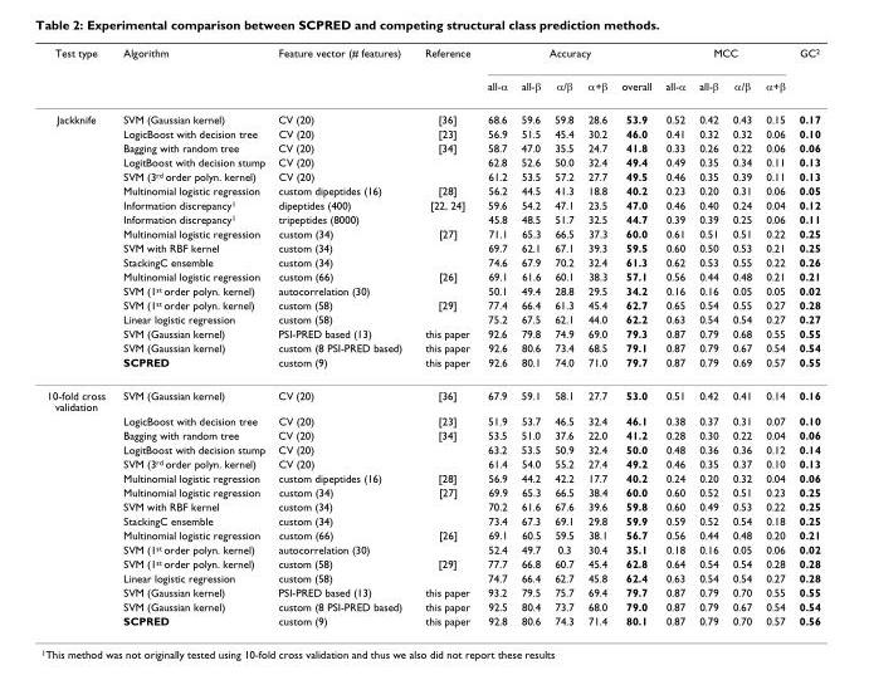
<table><thead><tr><td rowspan="2">Test type</td><td rowspan="2">Algorithm</td><td rowspan="2">Feature vector (# features)</td><td rowspan="2">Reference</td><td colspan="5">Accuracy</td><td colspan="4">MCC</td><td rowspan="2">GC<sup>2</sup></td></tr><tr><td>all-α</td><td>all-β</td><td>α/β</td><td>α+β</td><td>overall</td><td>all-α</td><td>all-β</td><td>α/β</td><td>α+β</td></tr></thead><tbody><tr><td rowspan="18">Jackknife</td><td>SVM (Gaussian kernel)</td><td>CV (20)</td><td>[36]</td><td>68.6</td><td>59.6</td><td>59.8</td><td>28.6</td><td>53.9</td><td>0.52</td><td>0.42</td><td>0.43</td><td>0.15</td><td>0.17</td></tr><tr><td>LogicBoost with decision tree</td><td>CV (20)</td><td>[23]</td><td>56.9</td><td>51.5</td><td>45.4</td><td>30.2</td><td>46.0</td><td>0.41</td><td>0.32</td><td>0.32</td><td>0.06</td><td>0.10</td></tr><tr><td>Bagging with random tree</td><td>CV (20)</td><td>[34]</td><td>58.7</td><td>47.0</td><td>35.5</td><td>24.7</td><td>41.8</td><td>0.33</td><td>0.26</td><td>0.22</td><td>0.06</td><td>0.06</td></tr><tr><td>LogitBoost with decision stump</td><td>CV (20)</td><td></td><td>62.8</td><td>52.6</td><td>50.0</td><td>32.4</td><td>49.4</td><td>0.49</td><td>0.35</td><td>0.34</td><td>0.11</td><td>0.13</td></tr><tr><td>SVM (3<sup>rd</sup> order polyn. kernel)</td><td>CV (20)</td><td></td><td>61.2</td><td>53.5</td><td>57.2</td><td>27.7</td><td>49.5</td><td>0.46</td><td>0.35</td><td>0.39</td><td>0.11</td><td>0.13</td></tr><tr><td>Multinomial logistic regression</td><td>custom dipeptides (16)</td><td>[28]</td><td>56.2</td><td>44.5</td><td>41.3</td><td>18.8</td><td>40.2</td><td>0.23</td><td>0.20</td><td>0.31</td><td>0.06</td><td>0.05</td></tr><tr><td>Information discrepancy<sup>1</sup></td><td>dipeptides (400)</td><td>[22, 24]</td><td>59.6</td><td>54.2</td><td>47.1</td><td>23.5</td><td>47.0</td><td>0.46</td><td>0.40</td><td>0.24</td><td>0.04</td><td>0.12</td></tr><tr><td>Information discrepancy<sup>1</sup></td><td>tripeptides (8000)</td><td></td><td>45.8</td><td>48.5</td><td>51.7</td><td>32.5</td><td>44.7</td><td>0.39</td><td>0.39</td><td>0.25</td><td>0.06</td><td>0.11</td></tr><tr><td>Multinomial logistic regression</td><td>custom (34)</td><td>[27]</td><td>71.1</td><td>65.3</td><td>66.5</td><td>37.3</td><td>60.0</td><td>0.61</td><td>0.51</td><td>0.51</td><td>0.22</td><td>0.25</td></tr><tr><td>SVM with RBF kernel</td><td>custom (34)</td><td></td><td>69.7</td><td>62.1</td><td>67.1</td><td>39.3</td><td>59.5</td><td>0.60</td><td>0.50</td><td>0.53</td><td>0.21</td><td>0.25</td></tr><tr><td>StackingC ensemble</td><td>custom (34)</td><td></td><td>74.6</td><td>67.9</td><td>70.2</td><td>32.4</td><td>61.3</td><td>0.62</td><td>0.53</td><td>0.55</td><td>0.22</td><td>0.26</td></tr><tr><td>Multinomial logistic regression</td><td>custom (66)</td><td>[26]</td><td>69.1</td><td>61.6</td><td>60.1</td><td>38.3</td><td>57.1</td><td>0.56</td><td>0.44</td><td>0.48</td><td>0.21</td><td>0.21</td></tr><tr><td>SVM (1<sup>st</sup> order polyn. kernel)</td><td>autocorrelation (30)</td><td></td><td>50.1</td><td>49.4</td><td>28.8</td><td>29.5</td><td>34.2</td><td>0.16</td><td>0.16</td><td>0.05</td><td>0.05</td><td>0.02</td></tr><tr><td>SVM (1<sup>st</sup> order polyn. kernel)</td><td>custom (58)</td><td>[29]</td><td>77.4</td><td>66.4</td><td>61.3</td><td>45.4</td><td>62.7</td><td>0.65</td><td>0.54</td><td>0.55</td><td>0.27</td><td>0.28</td></tr><tr><td>Linear logistic regression</td><td>custom (58)</td><td></td><td>75.2</td><td>67.5</td><td>62.1</td><td>44.0</td><td>62.2</td><td>0.63</td><td>0.54</td><td>0.54</td><td>0.27</td><td>0.27</td></tr><tr><td>SVM (Gaussian kernel)</td><td>PSI-PRED based (13)</td><td>this paper</td><td>92.6</td><td>79.8</td><td>74.9</td><td>69.0</td><td>79.3</td><td>0.87</td><td>0.79</td><td>0.68</td><td>0.55</td><td>0.55</td></tr><tr><td>SVM (Gaussian kernel)</td><td>custom (8 PSI-PRED based)</td><td>this paper</td><td>92.6</td><td>80.6</td><td>73.4</td><td>68.5</td><td>79.1</td><td>0.87</td><td>0.79</td><td>0.67</td><td>0.54</td><td>0.54</td></tr><tr><td>SCPRED</td><td>custom (9)</td><td>this paper</td><td>92.6</td><td>80.1</td><td>74.0</td><td>71.0</td><td>79.7</td><td>0.87</td><td>0.79</td><td>0.69</td><td>0.57</td><td>0.55</td></tr><tr><td rowspan="16">10-fold cross validation</td><td>SVM (Gaussian kernel)</td><td>CV (20)</td><td>[36]</td><td>67.9</td><td>59.1</td><td>58.1</td><td>27.7</td><td>53.0</td><td>0.51</td><td>0.42</td><td>0.41</td><td>0.14</td><td>0.16</td></tr><tr><td>LogicBoost with decision tree</td><td>CV (20)</td><td>[23]</td><td>51.9</td><td>53.7</td><td>46.5</td><td>32.4</td><td>46.1</td><td>0.38</td><td>0.37</td><td>0.31</td><td>0.07</td><td>0.10</td></tr><tr><td>Bagging with random tree</td><td>CV (20)</td><td>[34]</td><td>53.5</td><td>51.0</td><td>37.6</td><td>22.0</td><td>41.2</td><td>0.28</td><td>0.30</td><td>0.22</td><td>0.04</td><td>0.06</td></tr><tr><td>LogitBoost with decision stump</td><td>CV (20)</td><td></td><td>63.2</td><td>53.5</td><td>50.9</td><td>32.4</td><td>50.0</td><td>0.48</td><td>0.36</td><td>0.36</td><td>0.12</td><td>0.14</td></tr><tr><td>SVM (3<sup>rd</sup> order polyn. kernel)</td><td>CV (20)</td><td></td><td>61.4</td><td>54.0</td><td>55.2</td><td>27.4</td><td>49.2</td><td>0.46</td><td>0.35</td><td>0.37</td><td>0.10</td><td>0.13</td></tr><tr><td>Multinomial logistic regression</td><td>custom dipeptides (16)</td><td>[28]</td><td>56.9</td><td>44.2</td><td>42.2</td><td>17.7</td><td>40.2</td><td>0.24</td><td>0.20</td><td>0.32</td><td>0.04</td><td>0.06</td></tr><tr><td>Multinomial logistic regression</td><td>custom (34)</td><td>[27]</td><td>69.9</td><td>65.3</td><td>66.5</td><td>38.4</td><td>60.0</td><td>0.60</td><td>0.52</td><td>0.51</td><td>0.23</td><td>0.25</td></tr><tr><td>SVM with RBF kernel</td><td>custom (34)</td><td></td><td>70.2</td><td>61.6</td><td>67.6</td><td>39.6</td><td>59.8</td><td>0.60</td><td>0.49</td><td>0.53</td><td>0.22</td><td>0.25</td></tr><tr><td>StackingC ensemble</td><td>custom (34)</td><td></td><td>73.4</td><td>67.3</td><td>69.1</td><td>29.8</td><td>59.9</td><td>0.59</td><td>0.52</td><td>0.54</td><td>0.18</td><td>0.25</td></tr><tr><td>Multinomial logistic regression</td><td>custom (66)</td><td>[26]</td><td>69.1</td><td>60.5</td><td>59.5</td><td>38.1</td><td>56.7</td><td>0.56</td><td>0.44</td><td>0.48</td><td>0.20</td><td>0.21</td></tr><tr><td>SVM (1<sup>st</sup> order polyn. kernel)</td><td>autocorrelation (30)</td><td></td><td>52.4</td><td>49.7</td><td>0.3</td><td>30.4</td><td>35.1</td><td>0.18</td><td>0.16</td><td>0.05</td><td>0.06</td><td>0.02</td></tr><tr><td>SVM (1<sup>st</sup> order polyn. kernel)</td><td>custom (58)</td><td>[29]</td><td>77.7</td><td>66.8</td><td>60.7</td><td>45.4</td><td>62.8</td><td>0.64</td><td>0.54</td><td>0.54</td><td>0.28</td><td>0.28</td></tr><tr><td>Linear logistic regression</td><td>custom (58)</td><td></td><td>74.7</td><td>66.4</td><td>62.7</td><td>45.8</td><td>62.4</td><td>0.63</td><td>0.54</td><td>0.54</td><td>0.27</td><td>0.28</td></tr><tr><td>SVM (Gaussian kernel)</td><td>PSI-PRED based (13)</td><td>this paper</td><td>93.2</td><td>79.5</td><td>75.7</td><td>69.4</td><td>79.7</td><td>0.87</td><td>0.79</td><td>0.70</td><td>0.55</td><td>0.55</td></tr><tr><td>SVM (Gaussian kernel)</td><td>custom (8 PSI-PRED based)</td><td>this paper</td><td>92.5</td><td>80.4</td><td>73.7</td><td>68.0</td><td>79.0</td><td>0.87</td><td>0.79</td><td>0.67</td><td>0.54</td><td>0.54</td></tr><tr><td>SCPRED</td><td>custom (9)</td><td>this paper</td><td>92.8</td><td>80.6</td><td>74.3</td><td>71.4</td><td>80.1</td><td>0.87</td><td>0.79</td><td>0.70</td><td>0.57</td><td>0.56</td></tr></tbody></table>